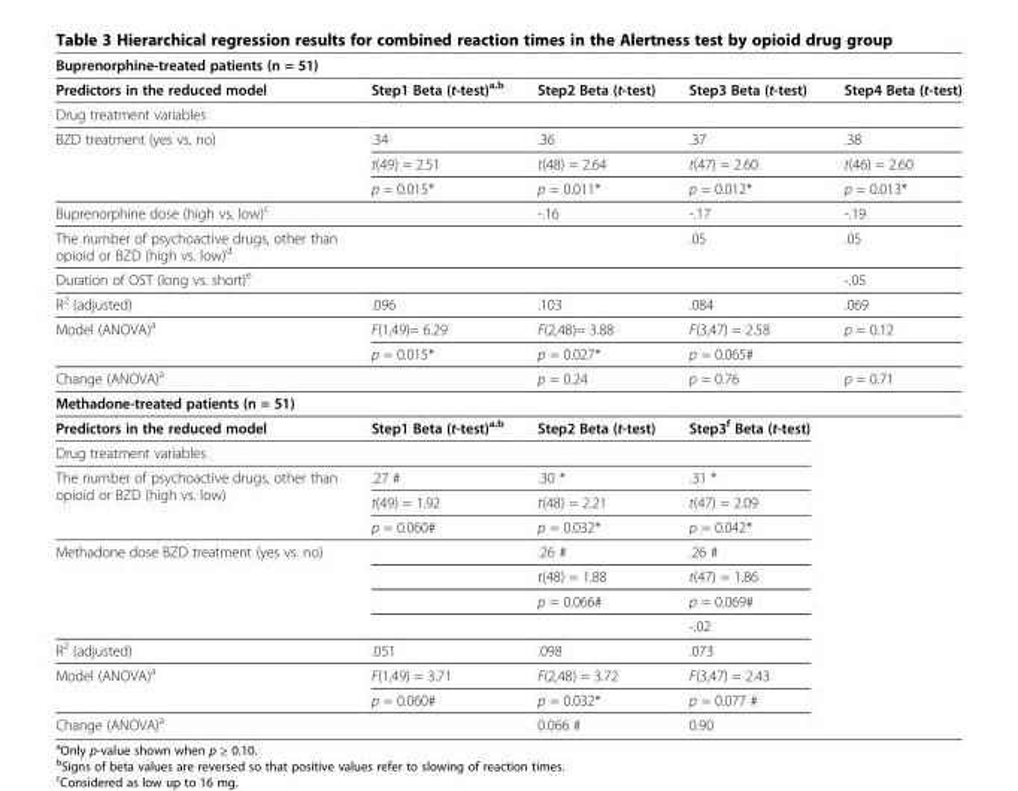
<table><thead><tr><td colspan="5">Buprenorphine-treated patients (n = 51)</td></tr><tr><td>Predictors in the reduced model</td><td>Step1 Beta (t-test)<sup>a,b</sup></td><td>Step2 Beta (t-test)</td><td>Step3 Beta (t-test)</td><td>Step4 Beta (t-test)</td></tr></thead><tbody><tr><td colspan="5">Drug treatment variables</td></tr><tr><td rowspan="3">BZD treatment (yes vs. no)</td><td>.34</td><td>.36</td><td>.37</td><td>.38</td></tr><tr><td>t(49) = 2.51</td><td>t(48) = 2.64</td><td>t(47) = 2.60</td><td>t(46) = 2.60</td></tr><tr><td>p = 0.015*</td><td>p = 0.011*</td><td>p = 0.012*</td><td>p = 0.013*</td></tr><tr><td>Buprenorphine dose (high vs. low)<sup>c</sup></td><td></td><td>-.16</td><td>-.17</td><td>-.19</td></tr><tr><td>The number of psychoactive drugs, other than opioid or BZD (high vs. low)<sup>d</sup></td><td></td><td></td><td>.05</td><td>.05</td></tr><tr><td>Duration of OST (long vs. short)<sup>e</sup></td><td></td><td></td><td></td><td>-.05</td></tr><tr><td>R<sup>2</sup> (adjusted)</td><td>.096</td><td>.103</td><td>.084</td><td>.069</td></tr><tr><td rowspan="2">Model (ANOVA)<sup>a</sup></td><td>F(1,49)= 6.29</td><td>F(2,48)= 3.88</td><td>F(3,47) = 2.58</td><td>p = 0.12</td></tr><tr><td>p = 0.015*</td><td>p = 0.027*</td><td>p = 0.065#</td><td></td></tr><tr><td>Change (ANOVA)<sup>a</sup></td><td></td><td>p = 0.24</td><td>p = 0.76</td><td>p = 0.71</td></tr><tr><td colspan="5">Methadone-treated patients (n = 51)</td></tr><tr><td>Predictors in the reduced model</td><td>Step1 Beta (t-test)<sup>a,b</sup></td><td>Step2 Beta (t-test)</td><td>Step3<sup>f</sup> Beta (t-test)</td><td rowspan="13"></td></tr><tr><td colspan="4">Drug treatment variables</td></tr><tr><td rowspan="3">The number of psychoactive drugs, other than opioid or BZD (high vs. low)</td><td>.27 #</td><td>.30 *</td><td>.31 *</td></tr><tr><td>t(49) = 1.92</td><td>t(48) = 2.21</td><td>t(47) = 2.09</td></tr><tr><td>p = 0.060#</td><td>p = 0.032*</td><td>p = 0.042*</td></tr><tr><td rowspan="4">Methadone dose BZD treatment (yes vs. no)</td><td></td><td>.26 #</td><td>.26 #</td></tr><tr><td></td><td>t(48) = 1.88</td><td>t(47) = 1.86</td></tr><tr><td></td><td>p = 0.066#</td><td>p = 0.069#</td></tr><tr><td></td><td></td><td>-.02</td></tr><tr><td>R<sup>2</sup> (adjusted)</td><td>.051</td><td>.098</td><td>.073</td></tr><tr><td rowspan="2">Model (ANOVA)<sup>a</sup></td><td>F(1,49) = 3.71</td><td>F(2,48) = 3.72</td><td>F(3,47) = 2.43</td></tr><tr><td>p = 0.060#</td><td>p = 0.032*</td><td>p = 0.077 #</td></tr><tr><td>Change (ANOVA)<sup>a</sup></td><td></td><td>0.066 #</td><td>0.90</td></tr></tbody></table>